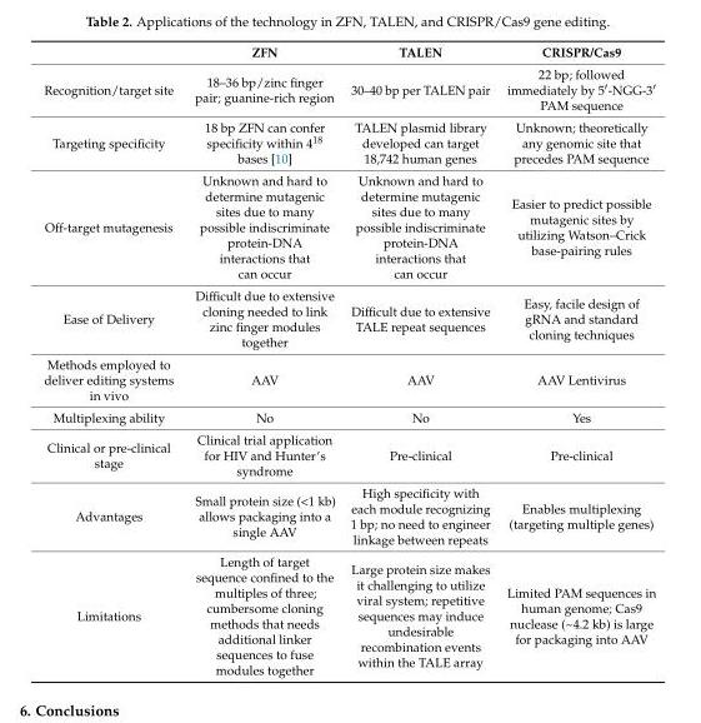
<table><thead><tr><td></td><td>ZFN</td><td>TALEN</td><td>CRISPR/Cas9</td></tr></thead><tbody><tr><td>Recognition/target site</td><td>18–36 bp/zinc finger pair; guanine-rich region</td><td>30–40 bp per TALEN pair</td><td>22 bp; followed immediately by 5′-NGG-3′ PAM sequence</td></tr><tr><td>Targeting specificity</td><td>18 bp ZFN can confer specificity within 4<sup>18</sup> bases [10]</td><td>TALEN plasmid library developed can target 18,742 human genes</td><td>Unknown; theoretically any genomic site that precedes PAM sequence</td></tr><tr><td>Off-target mutagenesis</td><td>Unknown and hard to determine mutagenic sites due to many possible indiscriminate protein-DNA interactions that can occur</td><td>Unknown and hard to determine mutagenic sites due to many possible indiscriminate protein-DNA interactions that can occur</td><td>Easier to predict possible mutagenic sites by utilizing Watson–Crick base-pairing rules</td></tr><tr><td>Ease of Delivery</td><td>Difficult due to extensive cloning needed to link zinc finger modules together</td><td>Difficult due to extensive TALE repeat sequences</td><td>Easy, facile design of gRNA and standard cloning techniques</td></tr><tr><td>Methods employed to deliver editing systems in vivo</td><td>AAV</td><td>AAV</td><td>AAV Lentivirus</td></tr><tr><td>Multiplexing ability</td><td>No</td><td>No</td><td>Yes</td></tr><tr><td>Clinical or pre-clinical stage</td><td>Clinical trial application for HIV and Hunter’s syndrome</td><td>Pre-clinical</td><td>Pre-clinical</td></tr><tr><td>Advantages</td><td>Small protein size (&lt;1 kb) allows packaging into a single AAV</td><td>High specificity with each module recognizing 1 bp; no need to engineer linkage between repeats</td><td>Enables multiplexing (targeting multiple genes)</td></tr><tr><td>Limitations</td><td>Length of target sequence confined to the multiples of three; cumbersome cloning methods that needs additional linker sequences to fuse modules together</td><td>Large protein size makes it challenging to utilize viral system; repetitive sequences may induce undesirable recombination events within the TALE array</td><td>Limited PAM sequences in human genome; Cas9 nuclease (~4.2 kb) is large for packaging into AAV</td></tr></tbody></table>